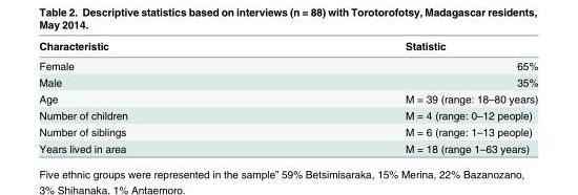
<table><thead><tr><td>Characteristic</td><td>Statistic</td></tr></thead><tbody><tr><td>Female</td><td>65%</td></tr><tr><td>Male</td><td>35%</td></tr><tr><td>Age</td><td>M = 39 (range: 18–80 years)</td></tr><tr><td>Number of children</td><td>M = 4 (range: 0–12 people)</td></tr><tr><td>Number of siblings</td><td>M = 6 (range: 1–13 people)</td></tr><tr><td>Years lived in area</td><td>M = 18 (range 1–63 years)</td></tr></tbody></table>